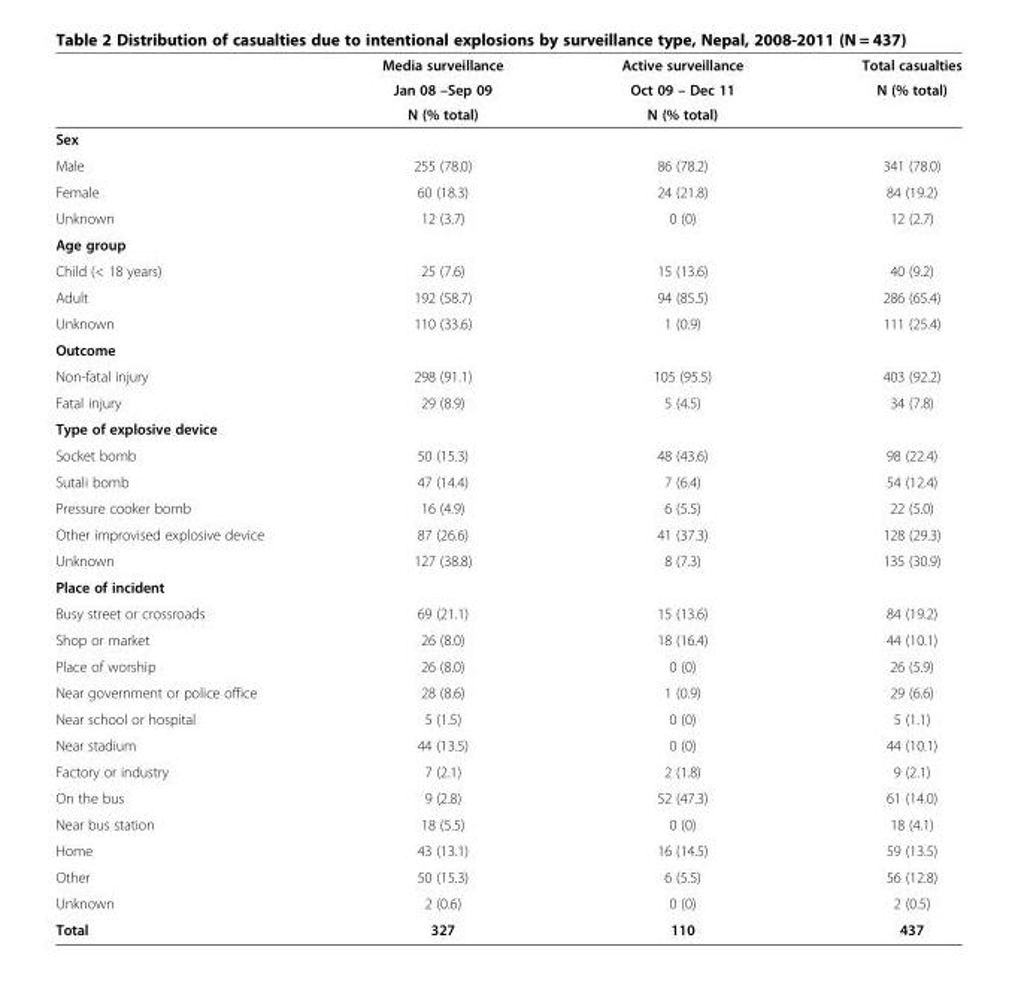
<table><thead><tr><td rowspan="3"></td><td rowspan="3">Media surveillance Jan 08 –Sep 09 N (% total)</td><td rowspan="3">Active surveillance Oct 09 – Dec 11 N (% total)</td><td rowspan="3">Total casualties N (% total)</td></tr><tr></tr><tr></tr></thead><tbody><tr><td colspan="4">Sex</td></tr><tr><td>Male</td><td>255 (78.0)</td><td>86 (78.2)</td><td>341 (78.0)</td></tr><tr><td>Female</td><td>60 (18.3)</td><td>24 (21.8)</td><td>84 (19.2)</td></tr><tr><td>Unknown</td><td>12 (3.7)</td><td>0 (0)</td><td>12 (2.7)</td></tr><tr><td colspan="4">Age group</td></tr><tr><td>Child (&lt; 18 years)</td><td>25 (7.6)</td><td>15 (13.6)</td><td>40 (9.2)</td></tr><tr><td>Adult</td><td>192 (58.7)</td><td>94 (85.5)</td><td>286 (65.4)</td></tr><tr><td>Unknown</td><td>110 (33.6)</td><td>1 (0.9)</td><td>111 (25.4)</td></tr><tr><td colspan="4">Outcome</td></tr><tr><td>Non-fatal injury</td><td>298 (91.1)</td><td>105 (95.5)</td><td>403 (92.2)</td></tr><tr><td>Fatal injury</td><td>29 (8.9)</td><td>5 (4.5)</td><td>34 (7.8)</td></tr><tr><td colspan="4">Type of explosive device</td></tr><tr><td>Socket bomb</td><td>50 (15.3)</td><td>48 (43.6)</td><td>98 (22.4)</td></tr><tr><td>Sutali bomb</td><td>47 (14.4)</td><td>7 (6.4)</td><td>54 (12.4)</td></tr><tr><td>Pressure cooker bomb</td><td>16 (4.9)</td><td>6 (5.5)</td><td>22 (5.0)</td></tr><tr><td>Other improvised explosive device</td><td>87 (26.6)</td><td>41 (37.3)</td><td>128 (29.3)</td></tr><tr><td>Unknown</td><td>127 (38.8)</td><td>8 (7.3)</td><td>135 (30.9)</td></tr><tr><td colspan="4">Place of incident</td></tr><tr><td>Busy street or crossroads</td><td>69 (21.1)</td><td>15 (13.6)</td><td>84 (19.2)</td></tr><tr><td>Shop or market</td><td>26 (8.0)</td><td>18 (16.4)</td><td>44 (10.1)</td></tr><tr><td>Place of worship</td><td>26 (8.0)</td><td>0 (0)</td><td>26 (5.9)</td></tr><tr><td>Near government or police office</td><td>28 (8.6)</td><td>1 (0.9)</td><td>29 (6.6)</td></tr><tr><td>Near school or hospital</td><td>5 (1.5)</td><td>0 (0)</td><td>5 (1.1)</td></tr><tr><td>Near stadium</td><td>44 (13.5)</td><td>0 (0)</td><td>44 (10.1)</td></tr><tr><td>Factory or industry</td><td>7 (2.1)</td><td>2 (1.8)</td><td>9 (2.1)</td></tr><tr><td>On the bus</td><td>9 (2.8)</td><td>52 (47.3)</td><td>61 (14.0)</td></tr><tr><td>Near bus station</td><td>18 (5.5)</td><td>0 (0)</td><td>18 (4.1)</td></tr><tr><td>Home</td><td>43 (13.1)</td><td>16 (14.5)</td><td>59 (13.5)</td></tr><tr><td>Other</td><td>50 (15.3)</td><td>6 (5.5)</td><td>56 (12.8)</td></tr><tr><td>Unknown</td><td>2 (0.6)</td><td>0 (0)</td><td>2 (0.5)</td></tr><tr><td>Total</td><td>327</td><td>110</td><td>437</td></tr></tbody></table>